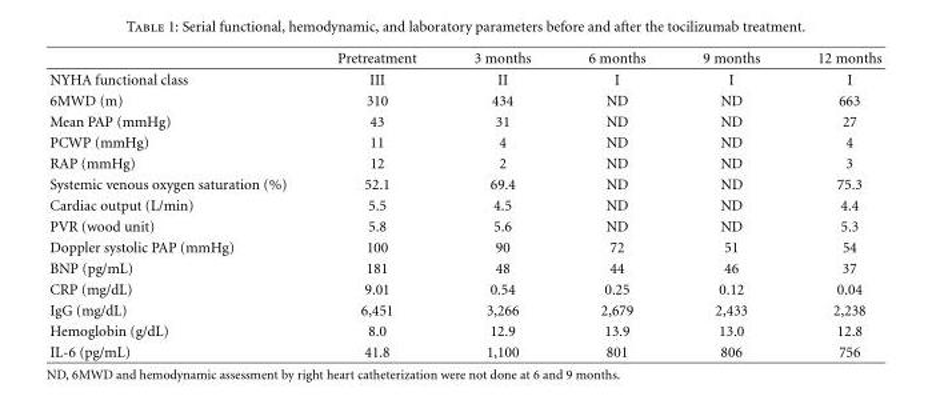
<table><thead><tr><td></td><td>Pretreatment</td><td>3 months</td><td>6 months</td><td>9 months</td><td>12 months</td></tr></thead><tbody><tr><td>NYHA functional class</td><td>III</td><td>II</td><td>I</td><td>I</td><td>I</td></tr><tr><td>6MWD (m)</td><td>310</td><td>434</td><td>ND</td><td>ND</td><td>663</td></tr><tr><td>Mean PAP (mmHg)</td><td>43</td><td>31</td><td>ND</td><td>ND</td><td>27</td></tr><tr><td>PCWP (mmHg)</td><td>11</td><td>4</td><td>ND</td><td>ND</td><td>4</td></tr><tr><td>RAP (mmHg)</td><td>12</td><td>2</td><td>ND</td><td>ND</td><td>3</td></tr><tr><td>Systemic venous oxygen saturation (%)</td><td>52.1</td><td>69.4</td><td>ND</td><td>ND</td><td>75.3</td></tr><tr><td>Cardiac output (L/min)</td><td>5.5</td><td>4.5</td><td>ND</td><td>ND</td><td>4.4</td></tr><tr><td>PVR (wood unit)</td><td>5.8</td><td>5.6</td><td>ND</td><td>ND</td><td>5.3</td></tr><tr><td>Doppler systolic PAP (mmHg)</td><td>100</td><td>90</td><td>72</td><td>51</td><td>54</td></tr><tr><td>BNP (pg/mL)</td><td>181</td><td>48</td><td>44</td><td>46</td><td>37</td></tr><tr><td>CRP (mg/dL)</td><td>9.01</td><td>0.54</td><td>0.25</td><td>0.12</td><td>0.04</td></tr><tr><td>IgG (mg/dL)</td><td>6,451</td><td>3,266</td><td>2,679</td><td>2,433</td><td>2,238</td></tr><tr><td>Hemoglobin (g/dL)</td><td>8.0</td><td>12.9</td><td>13.9</td><td>13.0</td><td>12.8</td></tr><tr><td>IL-6 (pg/mL)</td><td>41.8</td><td>1,100</td><td>801</td><td>806</td><td>756</td></tr></tbody></table>